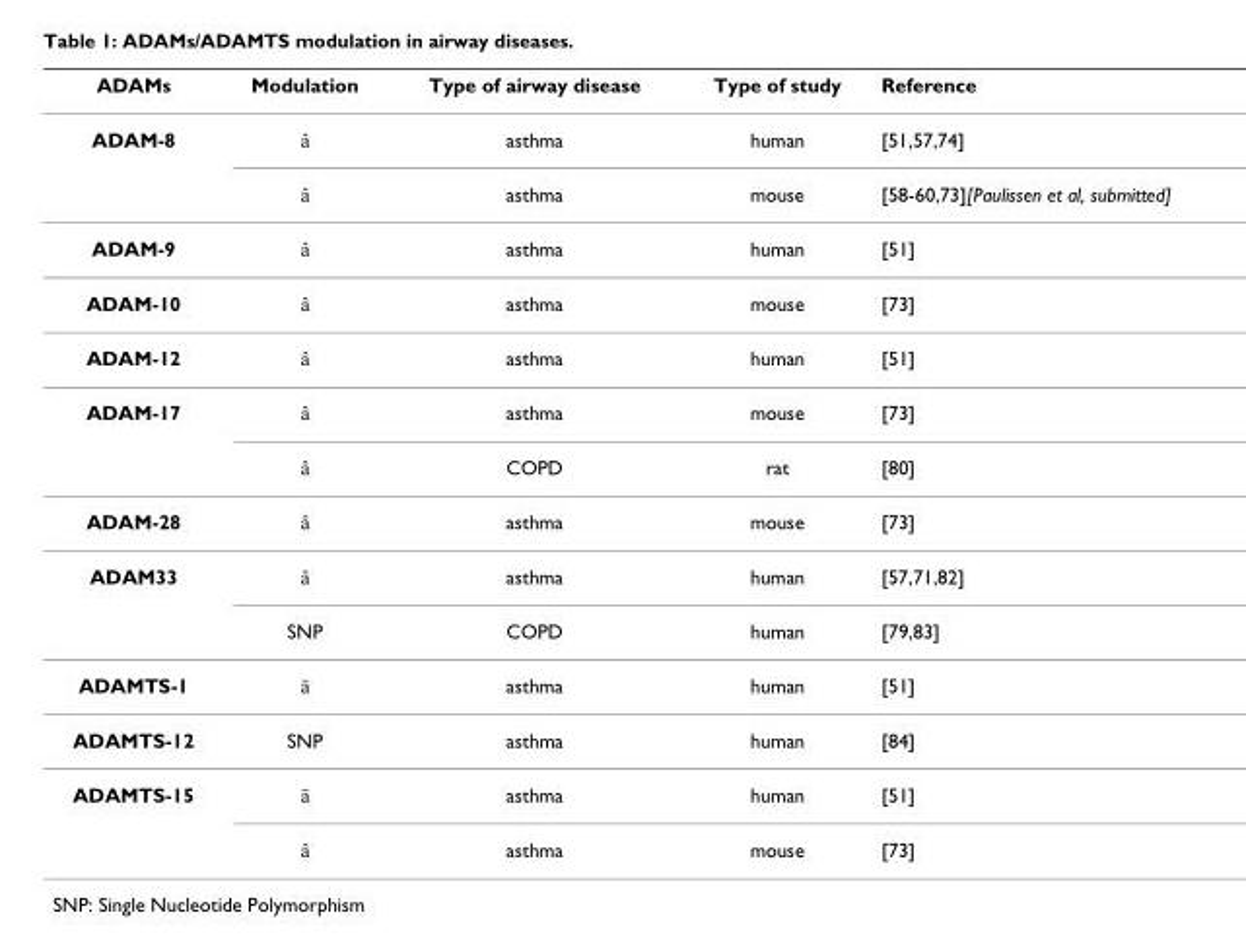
<table><thead><tr><td>ADAMs</td><td>Modulation</td><td>Type of airway disease</td><td>Type of study</td><td>Reference</td></tr></thead><tbody><tr><td rowspan="2">ADAM-8</td><td>â</td><td>asthma</td><td>human</td><td>[51,57,74]</td></tr><tr><td>â</td><td>asthma</td><td>mouse</td><td>[58-60,73][Paulissen et al, submitted]</td></tr><tr><td>ADAM-9</td><td>â</td><td>asthma</td><td>human</td><td>[51]</td></tr><tr><td>ADAM-10</td><td>â</td><td>asthma</td><td>mouse</td><td>[73]</td></tr><tr><td>ADAM-12</td><td>â</td><td>asthma</td><td>human</td><td>[51]</td></tr><tr><td rowspan="2">ADAM-17</td><td>â</td><td>asthma</td><td>mouse</td><td>[73]</td></tr><tr><td>â</td><td>COPD</td><td>rat</td><td>[80]</td></tr><tr><td>ADAM-28</td><td>â</td><td>asthma</td><td>mouse</td><td>[73]</td></tr><tr><td rowspan="2">ADAM33</td><td>â</td><td>asthma</td><td>human</td><td>[57,71,82]</td></tr><tr><td>SNP</td><td>COPD</td><td>human</td><td>[79,83]</td></tr><tr><td>ADAMTS-1</td><td>ä</td><td>asthma</td><td>human</td><td>[51]</td></tr><tr><td>ADAMTS-12</td><td>SNP</td><td>asthma</td><td>human</td><td>[84]</td></tr><tr><td rowspan="2">ADAMTS-15</td><td>ä</td><td>asthma</td><td>human</td><td>[51]</td></tr><tr><td>â</td><td>asthma</td><td>mouse</td><td>[73]</td></tr></tbody></table>